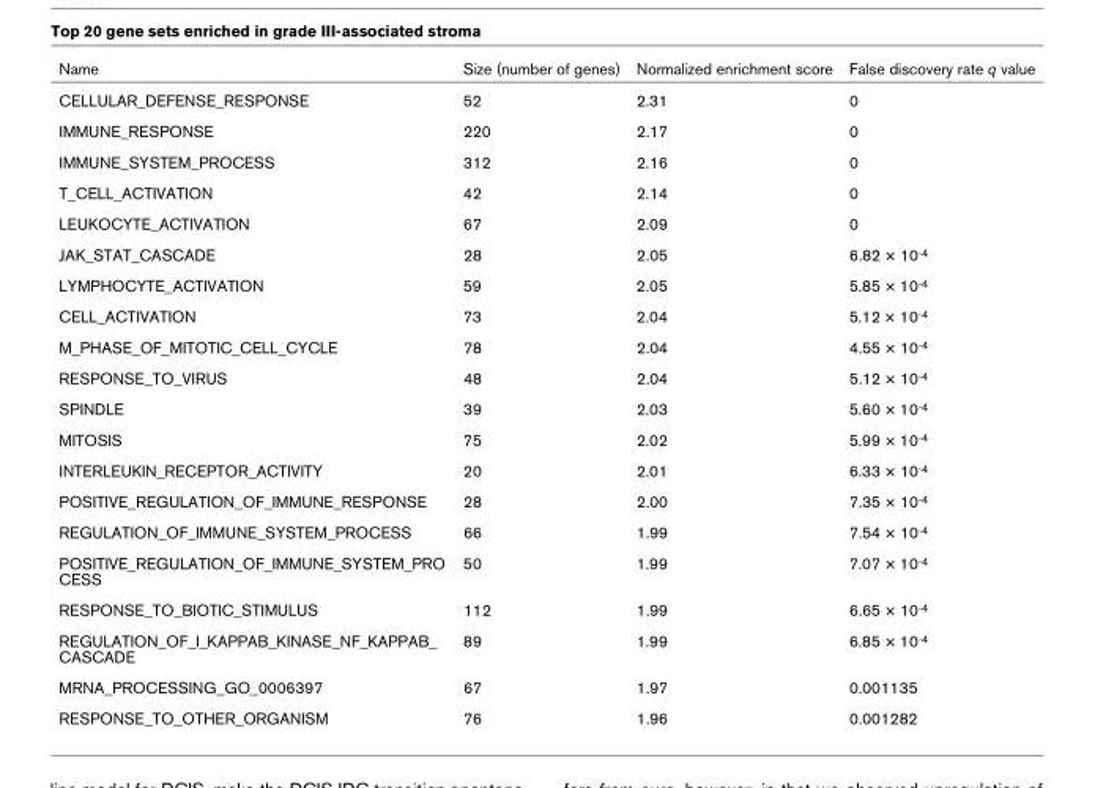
<table><thead><tr><td>Name</td><td>Size (number of genes)</td><td>Normalized enrichment score</td><td>False discovery rate q value</td></tr></thead><tbody><tr><td>CELLULAR_DEFENSE_RESPONSE</td><td>52</td><td>2.31</td><td>0</td></tr><tr><td>IMMUNE_RESPONSE</td><td>220</td><td>2.17</td><td>0</td></tr><tr><td>IMMUNE_SYSTEM_PROCESS</td><td>312</td><td>2.16</td><td>0</td></tr><tr><td>T_CELL_ACTIVATION</td><td>42</td><td>2.14</td><td>0</td></tr><tr><td>LEUKOCYTE_ACTIVATION</td><td>67</td><td>2.09</td><td>0</td></tr><tr><td>JAK_STAT_CASCADE</td><td>28</td><td>2.05</td><td>6.82 × 10<sup>-4</sup></td></tr><tr><td>LYMPHOCYTE_ACTIVATION</td><td>59</td><td>2.05</td><td>5.85 × 10<sup>-4</sup></td></tr><tr><td>CELL_ACTIVATION</td><td>73</td><td>2.04</td><td>5.12 × 10<sup>-4</sup></td></tr><tr><td>M_PHASE_OF_MITOTIC_CELL_CYCLE</td><td>78</td><td>2.04</td><td>4.55 × 10<sup>-4</sup></td></tr><tr><td>RESPONSE_TO_VIRUS</td><td>48</td><td>2.04</td><td>5.12 × 10<sup>-4</sup></td></tr><tr><td>SPINDLE</td><td>39</td><td>2.03</td><td>5.60 × 10<sup>-4</sup></td></tr><tr><td>MITOSIS</td><td>75</td><td>2.02</td><td>5.99 × 10<sup>-4</sup></td></tr><tr><td>INTERLEUKIN_RECEPTOR_ACTIVITY</td><td>20</td><td>2.01</td><td>6.33 × 10<sup>-4</sup></td></tr><tr><td>POSITIVE_REGULATION_OF_IMMUNE_RESPONSE</td><td>28</td><td>2.00</td><td>7.35 × 10<sup>-4</sup></td></tr><tr><td>REGULATION_OF_IMMUNE_SYSTEM_PROCESS</td><td>66</td><td>1.99</td><td>7.54 × 10<sup>-4</sup></td></tr><tr><td>POSITIVE_REGULATION_OF_IMMUNE_SYSTEM_PRO CESS</td><td>50</td><td>1.99</td><td>7.07 × 10<sup>-4</sup></td></tr><tr><td>RESPONSE_TO_BIOTIC_STIMULUS</td><td>112</td><td>1.99</td><td>6.65 × 10<sup>-4</sup></td></tr><tr><td>REGULATION_OF_I_KAPPAB_KINASE_NF_KAPPAB_ CASCADE</td><td>89</td><td>1.99</td><td>6.85 × 10<sup>-4</sup></td></tr><tr><td>MRNA_PROCESSING_GO_0006397</td><td>67</td><td>1.97</td><td>0.001135</td></tr><tr><td>RESPONSE_TO_OTHER_ORGANISM</td><td>76</td><td>1.96</td><td>0.001282</td></tr></tbody></table>